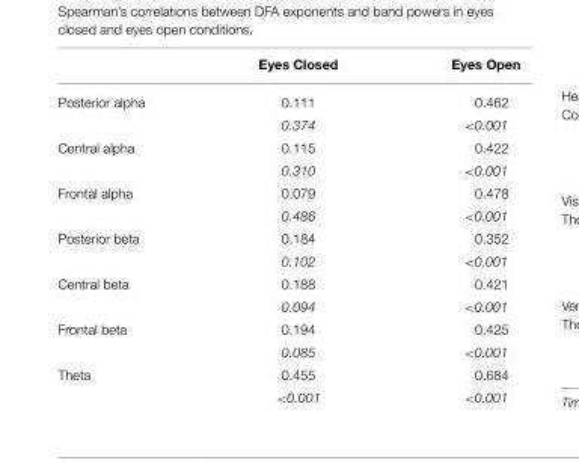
<table><thead><tr><td></td><td>Eyes Closed</td><td>Eyes Open</td></tr></thead><tbody><tr><td rowspan="2">Posterior alpha</td><td>0.111</td><td>0.462</td></tr><tr><td>0.374</td><td>&lt;0.001</td></tr><tr><td rowspan="2">Central alpha</td><td>0.115</td><td>0.422</td></tr><tr><td>0.310</td><td>&lt;0.001</td></tr><tr><td rowspan="2">Frontal alpha</td><td>0.079</td><td>0.478</td></tr><tr><td>0.486</td><td>&lt;0.001</td></tr><tr><td rowspan="2">Posterior beta</td><td>0.184</td><td>0.352</td></tr><tr><td>0.102</td><td>&lt;0.001</td></tr><tr><td rowspan="2">Central beta</td><td>0.188</td><td>0.421</td></tr><tr><td>0.094</td><td>&lt;0.001</td></tr><tr><td rowspan="2">Frontal beta</td><td>0.194</td><td>0.425</td></tr><tr><td>0.085</td><td>&lt;0.001</td></tr><tr><td rowspan="2">Theta</td><td>0.455</td><td>0.684</td></tr><tr><td>&lt;0.001</td><td>&lt;0.001</td></tr></tbody></table>